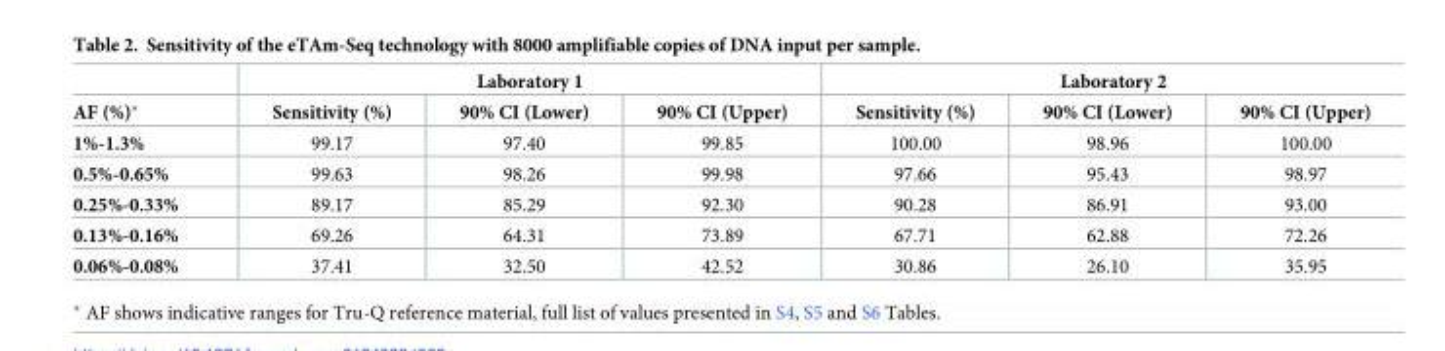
<table><thead><tr><td rowspan="2">AF (%)*</td><td colspan="3">Laboratory 1</td><td colspan="3">Laboratory 2</td></tr><tr><td>Sensitivity (%)</td><td>90% CI (Lower)</td><td>90% CI (Upper)</td><td>Sensitivity (%)</td><td>90% CI (Lower)</td><td>90% CI (Upper)</td></tr></thead><tbody><tr><td>1%-1.3%</td><td>99.17</td><td>97.40</td><td>99.85</td><td>100.00</td><td>98.96</td><td>100.00</td></tr><tr><td>0.5%-0.65%</td><td>99.63</td><td>98.26</td><td>99.98</td><td>97.66</td><td>95.43</td><td>98.97</td></tr><tr><td>0.25%-0.33%</td><td>89.17</td><td>85.29</td><td>92.30</td><td>90.28</td><td>86.91</td><td>93.00</td></tr><tr><td>0.13%-0.16%</td><td>69.26</td><td>64.31</td><td>73.89</td><td>67.71</td><td>62.88</td><td>72.26</td></tr><tr><td>0.06%-0.08%</td><td>37.41</td><td>32.50</td><td>42.52</td><td>30.86</td><td>26.10</td><td>35.95</td></tr></tbody></table>